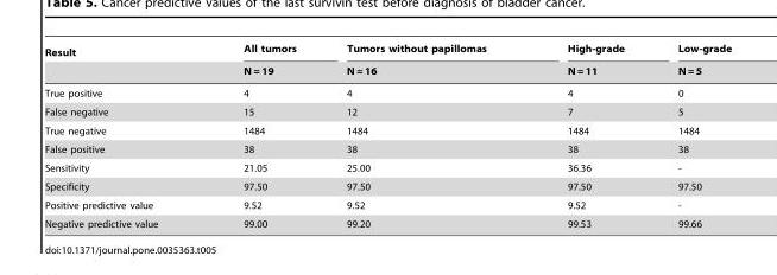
<table><thead><tr><td rowspan="2">Result</td><td rowspan="2">All tumors N = 19</td><td rowspan="2">Tumors without papillomas N = 16</td><td rowspan="2">High-grade N = 11</td><td rowspan="2">Low-grade N = 5</td></tr><tr></tr></thead><tbody><tr><td>True positive</td><td>4</td><td>4</td><td>4</td><td>0</td></tr><tr><td>False negative</td><td>15</td><td>12</td><td>7</td><td>5</td></tr><tr><td>True negative</td><td>1484</td><td>1484</td><td>1484</td><td>1484</td></tr><tr><td>False positive</td><td>38</td><td>38</td><td>38</td><td>38</td></tr><tr><td>Sensitivity</td><td>21.05</td><td>25.00</td><td>36.36</td><td>-</td></tr><tr><td>Specificity</td><td>97.50</td><td>97.50</td><td>97.50</td><td>97.50</td></tr><tr><td>Positive predictive value</td><td>9.52</td><td>9.52</td><td>9.52</td><td>-</td></tr><tr><td>Negative predictive value</td><td>99.00</td><td>99.20</td><td>99.53</td><td>99.66</td></tr></tbody></table>